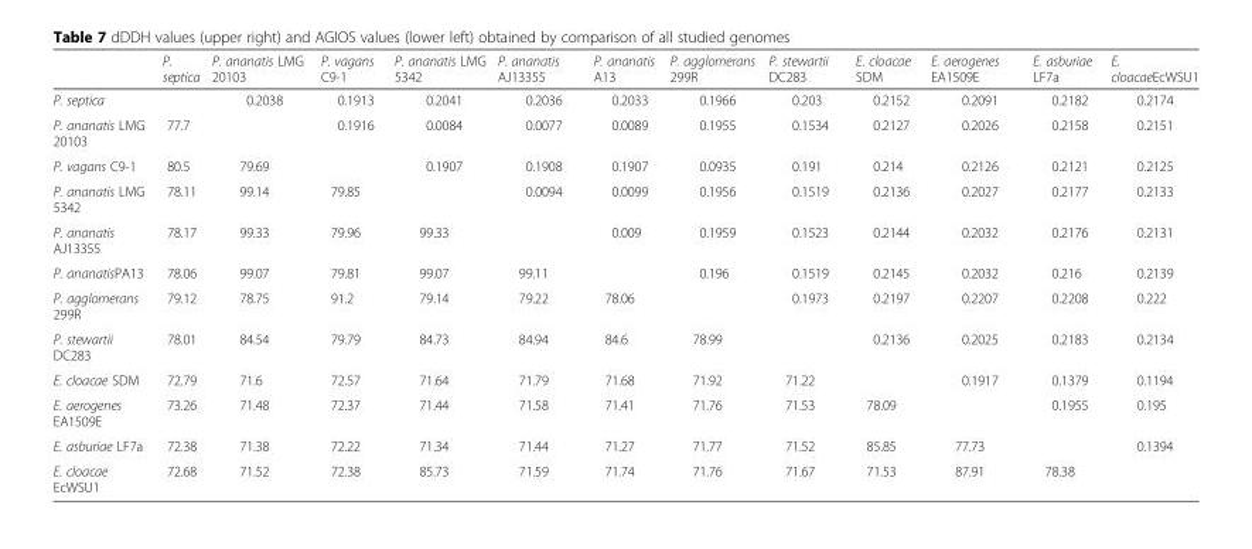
<table><thead><tr><td></td><td>P. septica</td><td>P. ananatis LMG 20103</td><td>P. vagans C9-1</td><td>P. ananatis LMG 5342</td><td>P. ananatis AJ13355</td><td>P. ananatis A13</td><td>P. agglomerans 299R</td><td>P. stewartii DC283</td><td>E. cloacae SDM</td><td>E. aerogenes EA1509E</td><td>E. asburiae LF7a</td><td>E. cloacaeEcWSU1</td></tr></thead><tbody><tr><td>P. septica</td><td></td><td>0.2038</td><td>0.1913</td><td>0.2041</td><td>0.2036</td><td>0.2033</td><td>0.1966</td><td>0.203</td><td>0.2152</td><td>0.2091</td><td>0.2182</td><td>0.2174</td></tr><tr><td>P. ananatis LMG 20103</td><td>77.7</td><td></td><td>0.1916</td><td>0.0084</td><td>0.0077</td><td>0.0089</td><td>0.1955</td><td>0.1534</td><td>0.2127</td><td>0.2026</td><td>0.2158</td><td>0.2151</td></tr><tr><td>P. vagans C9-1</td><td>80.5</td><td>79.69</td><td></td><td>0.1907</td><td>0.1908</td><td>0.1907</td><td>0.0935</td><td>0.191</td><td>0.214</td><td>0.2126</td><td>0.2121</td><td>0.2125</td></tr><tr><td>P. ananatis LMG 5342</td><td>78.11</td><td>99.14</td><td>79.85</td><td></td><td>0.0094</td><td>0.0099</td><td>0.1956</td><td>0.1519</td><td>0.2136</td><td>0.2027</td><td>0.2177</td><td>0.2133</td></tr><tr><td>P. ananatis AJ13355</td><td>78.17</td><td>99.33</td><td>79.96</td><td>99.33</td><td></td><td>0.009</td><td>0.1959</td><td>0.1523</td><td>0.2144</td><td>0.2032</td><td>0.2176</td><td>0.2131</td></tr><tr><td>P. ananatisPA13</td><td>78.06</td><td>99.07</td><td>79.81</td><td>99.07</td><td>99.11</td><td></td><td>0.196</td><td>0.1519</td><td>0.2145</td><td>0.2032</td><td>0.216</td><td>0.2139</td></tr><tr><td>P. agglomerans 299R</td><td>79.12</td><td>78.75</td><td>91.2</td><td>79.14</td><td>79.22</td><td>78.06</td><td></td><td>0.1973</td><td>0.2197</td><td>0.2207</td><td>0.2208</td><td>0.222</td></tr><tr><td>P. stewartii DC283</td><td>78.01</td><td>84.54</td><td>79.79</td><td>84.73</td><td>84.94</td><td>84.6</td><td>78.99</td><td></td><td>0.2136</td><td>0.2025</td><td>0.2183</td><td>0.2134</td></tr><tr><td>E. cloacae SDM</td><td>72.79</td><td>71.6</td><td>72.57</td><td>71.64</td><td>71.79</td><td>71.68</td><td>71.92</td><td>71.22</td><td></td><td>0.1917</td><td>0.1379</td><td>0.1194</td></tr><tr><td>E. aerogenes EA1509E</td><td>73.26</td><td>71.48</td><td>72.37</td><td>71.44</td><td>71.58</td><td>71.41</td><td>71.76</td><td>71.53</td><td>78.09</td><td></td><td>0.1955</td><td>0.195</td></tr><tr><td>E. asburiae LF7a</td><td>72.38</td><td>71.38</td><td>72.22</td><td>71.34</td><td>71.44</td><td>71.27</td><td>71.77</td><td>71.52</td><td>85.85</td><td>77.73</td><td></td><td>0.1394</td></tr><tr><td>E. cloacae EcWSU1</td><td>72.68</td><td>71.52</td><td>72.38</td><td>85.73</td><td>71.59</td><td>71.74</td><td>71.76</td><td>71.67</td><td>71.53</td><td>87.91</td><td>78.38</td><td></td></tr></tbody></table>